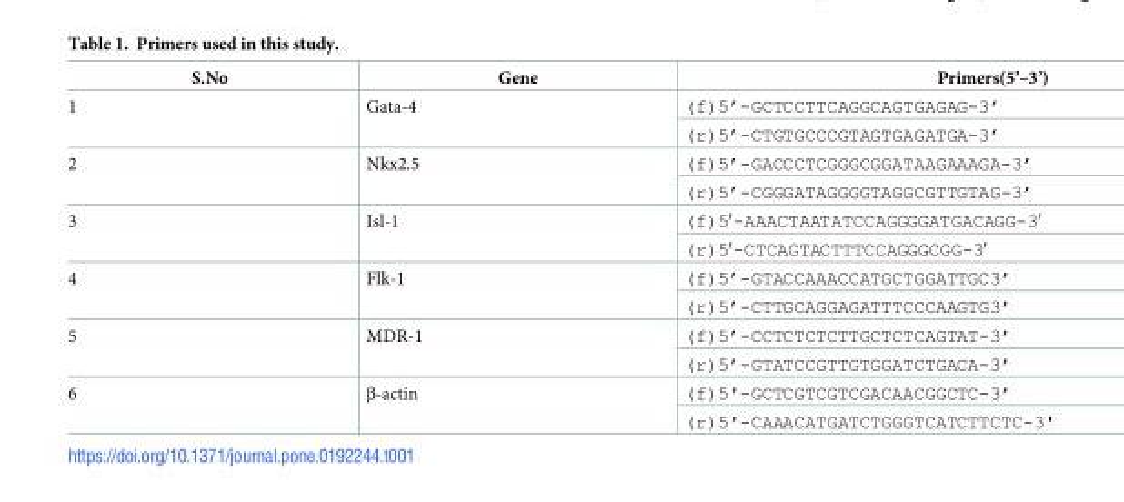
<table><thead><tr><td>S.No</td><td>Gene</td><td>Primers(5’–3’)</td></tr></thead><tbody><tr><td rowspan="2">1</td><td rowspan="2">Gata-4</td><td>(f)5’-GCTCCTTCAGGCAGTGAGAG-3’</td></tr><tr><td>(r)5’-CTGTGCCCGTAGTGAGATGA-3’</td></tr><tr><td rowspan="2">2</td><td rowspan="2">Nkx2.5</td><td>(f)5’-GACCCTCGGGCGGATAAGAAAGA-3’</td></tr><tr><td>(r)5’-CGGGATAGGGGTAGGCGTTGTAG-3’</td></tr><tr><td rowspan="2">3</td><td rowspan="2">Isl-1</td><td>(f)5′-AAACTAATATCCAGGGGATGACAGG-3′</td></tr><tr><td>(r)5′-CTCAGTACTTTCCAGGGCGG-3′</td></tr><tr><td rowspan="2">4</td><td rowspan="2">Flk-1</td><td>(f)5’-GTACCAAACCATGCTGGATTGC3’</td></tr><tr><td>(r)5’-CTTGCAGGAGATTTCCCAAGTG3’</td></tr><tr><td rowspan="2">5</td><td rowspan="2">MDR-1</td><td>(f)5’-CCTCTCTCTTGCTCTCAGTAT-3’</td></tr><tr><td>(r)5’-GTATCCGTTGTGGATCTGACA-3’</td></tr><tr><td rowspan="2">6</td><td rowspan="2">β-actin</td><td>(f)5&#x27;-GCTCGTCGTCGACAACGGCTC-3’</td></tr><tr><td>(r)5&#x27;-CAAACATGATCTGGGTCATCTTCTC-3&#x27;</td></tr></tbody></table>